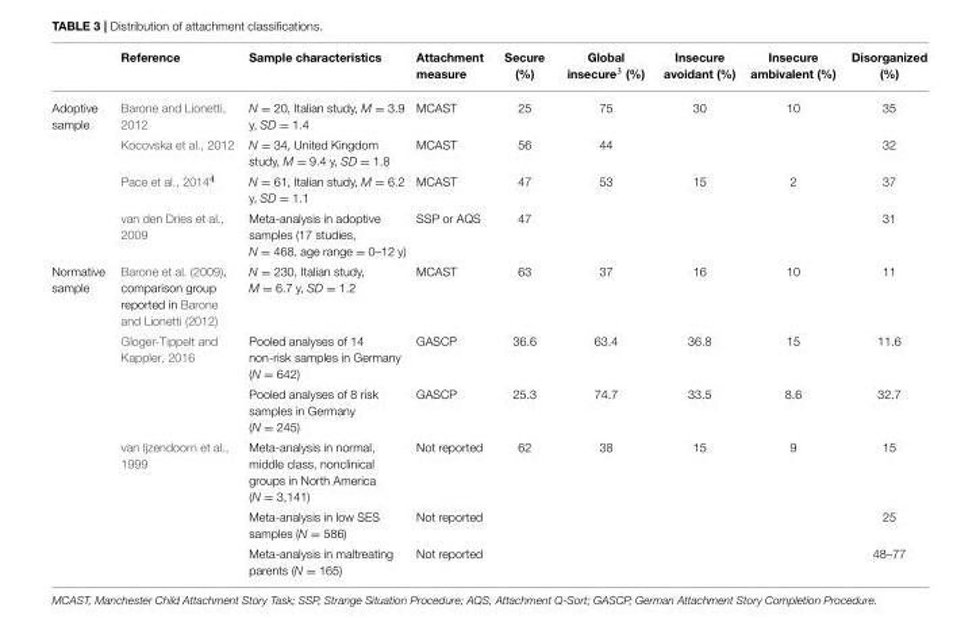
<table><thead><tr><td></td><td>Reference</td><td>Sample characteristics</td><td>Attachment measure</td><td>Secure (%)</td><td>Global insecure<sup>3</sup> (%)</td><td>Insecure avoidant (%)</td><td>Insecure ambivalent (%)</td><td>Disorganized (%)</td></tr></thead><tbody><tr><td rowspan="4">Adoptive sample</td><td>Barone and Lionetti, 2012</td><td>N = 20, Italian study, M = 3.9 y, SD = 1.4</td><td>MCAST</td><td>25</td><td>75</td><td>30</td><td>10</td><td>35</td></tr><tr><td>Kocovska et al., 2012</td><td>N = 34, United Kingdom study, M = 9.4 y, SD = 1.8</td><td>MCAST</td><td>56</td><td>44</td><td></td><td></td><td>32</td></tr><tr><td>Pace et al., 20144</td><td>N = 61, Italian study, M = 6.2 y, SD = 1.1</td><td>MCAST</td><td>47</td><td>53</td><td>15</td><td>2</td><td>37</td></tr><tr><td>van den Dries et al., 2009</td><td>Meta-analysis in adoptive samples (17 studies, N = 468, age range = 0–12 y)</td><td>SSP or AQS</td><td>47</td><td></td><td></td><td></td><td>31</td></tr><tr><td rowspan="6">Normative sample</td><td>Barone et al. (2009), comparison group reported in Barone and Lionetti (2012)</td><td>N = 230, Italian study, M = 6.7 y, SD = 1.2</td><td>MCAST</td><td>63</td><td>37</td><td>16</td><td>10</td><td>11</td></tr><tr><td>Gloger-Tippelt and Kappler, 2016</td><td>Pooled analyses of 14 non-risk samples in Germany (N = 642)</td><td>GASCP</td><td>36.6</td><td>63.4</td><td>36.8</td><td>15</td><td>11.6</td></tr><tr><td></td><td>Pooled analyses of 8 risk samples in Germany (N = 245)</td><td>GASCP</td><td>25.3</td><td>74.7</td><td>33.5</td><td>8.6</td><td>32.7</td></tr><tr><td>van Ijzendoorn et al., 1999</td><td>Meta-analysis in normal, middle class, nonclinical groups in North America (N = 3,141)</td><td>Not reported</td><td>62</td><td>38</td><td>15</td><td>9</td><td>15</td></tr><tr><td></td><td>Meta-analysis in low SES samples (N = 586)</td><td>Not reported</td><td></td><td></td><td></td><td></td><td>25</td></tr><tr><td></td><td>Meta-analysis in maltreating parents (N = 165)</td><td>Not reported</td><td></td><td></td><td></td><td></td><td>48–77</td></tr></tbody></table>